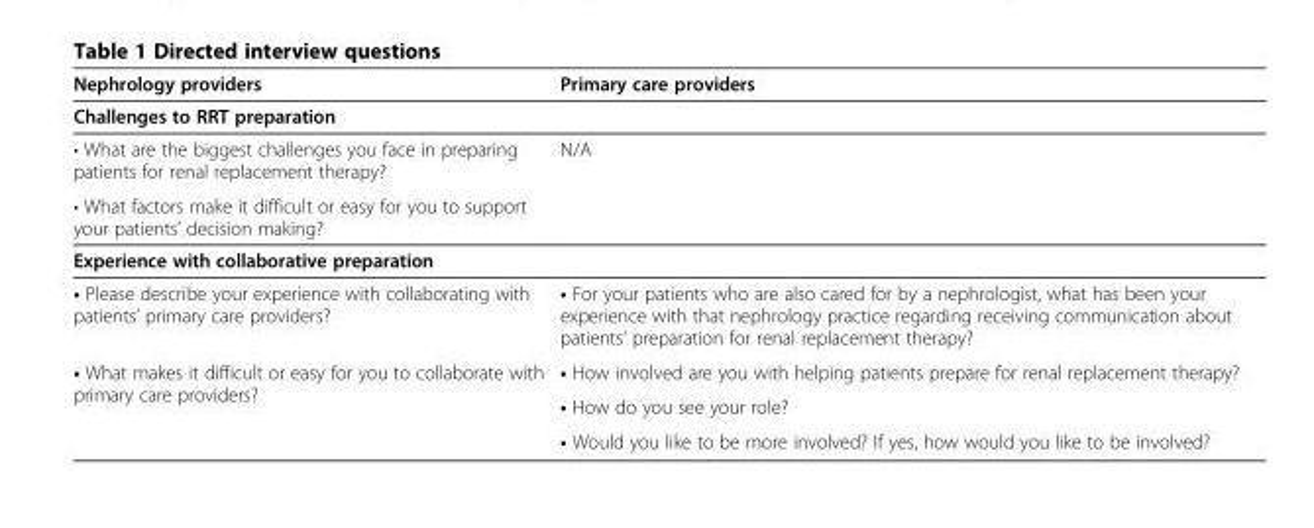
<table><thead><tr><td>Nephrology providers</td><td>Primary care providers</td></tr></thead><tbody><tr><td colspan="2">Challenges to RRT preparation</td></tr><tr><td>• What are the biggest challenges you face in preparing patients for renal replacement therapy?</td><td rowspan="2">N/A</td></tr><tr><td>• What factors make it difficult or easy for you to support your patients’ decision making?</td></tr><tr><td colspan="2">Experience with collaborative preparation</td></tr><tr><td>• Please describe your experience with collaborating with patients’ primary care providers?</td><td>• For your patients who are also cared for by a nephrologist, what has been your experience with that nephrology practice regarding receiving communication about patients’ preparation for renal replacement therapy?</td></tr><tr><td rowspan="3">• What makes it difficult or easy for you to collaborate with primary care providers?</td><td>• How involved are you with helping patients prepare for renal replacement therapy?</td></tr><tr><td>• How do you see your role?</td></tr><tr><td>• Would you like to be more involved? If yes, how would you like to be involved?</td></tr></tbody></table>